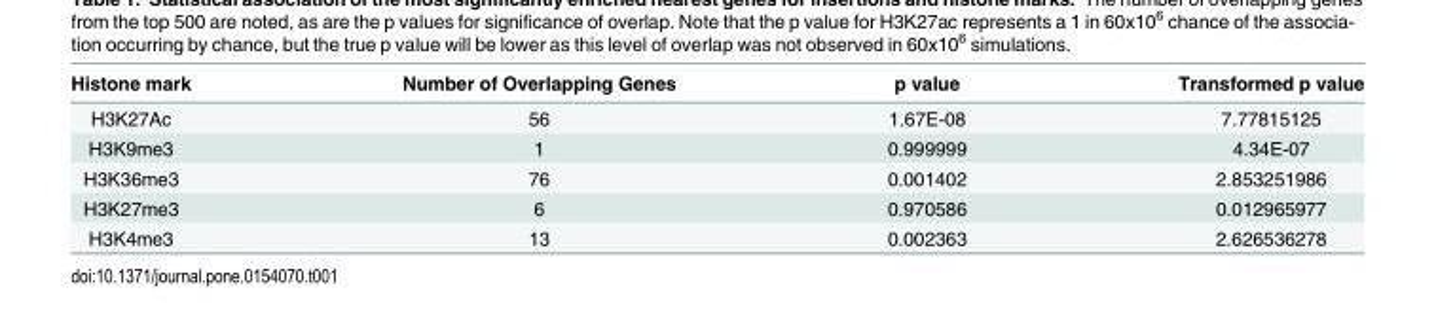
<table><thead><tr><td>Histone mark</td><td>Number of Overlapping Genes</td><td>p value</td><td>Transformed p value</td></tr></thead><tbody><tr><td>H3K27Ac</td><td>56</td><td>1.67E-08</td><td>7.77815125</td></tr><tr><td>H3K9me3</td><td>1</td><td>0.999999</td><td>4.34E-07</td></tr><tr><td>H3K36me3</td><td>76</td><td>0.001402</td><td>2.853251986</td></tr><tr><td>H3K27me3</td><td>6</td><td>0.970586</td><td>0.012965977</td></tr><tr><td>H3K4me3</td><td>13</td><td>0.002363</td><td>2.626536278</td></tr></tbody></table>